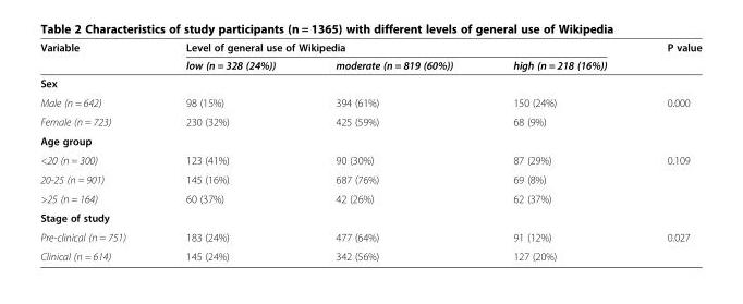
<table><thead><tr><td rowspan="2">Variable</td><td colspan="3">Level of general use of Wikipedia</td><td rowspan="2">P value</td></tr><tr><td>low (n = 328 (24%))</td><td>moderate (n = 819 (60%))</td><td>high (n = 218 (16%))</td></tr></thead><tbody><tr><td colspan="5">Sex</td></tr><tr><td>Male (n = 642)</td><td>98 (15%)</td><td>394 (61%)</td><td>150 (24%)</td><td rowspan="2">0.000</td></tr><tr><td>Female (n = 723)</td><td>230 (32%)</td><td>425 (59%)</td><td>68 (9%)</td></tr><tr><td colspan="5">Age group</td></tr><tr><td>&lt;20 (n = 300)</td><td>123 (41%)</td><td>90 (30%)</td><td>87 (29%)</td><td rowspan="3">0.109</td></tr><tr><td>20-25 (n = 901)</td><td>145 (16%)</td><td>687 (76%)</td><td>69 (8%)</td></tr><tr><td>&gt;25 (n = 164)</td><td>60 (37%)</td><td>42 (26%)</td><td>62 (37%)</td></tr><tr><td colspan="5">Stage of study</td></tr><tr><td>Pre-clinical (n = 751)</td><td>183 (24%)</td><td>477 (64%)</td><td>91 (12%)</td><td rowspan="2">0.027</td></tr><tr><td>Clinical (n = 614)</td><td>145 (24%)</td><td>342 (56%)</td><td>127 (20%)</td></tr></tbody></table>